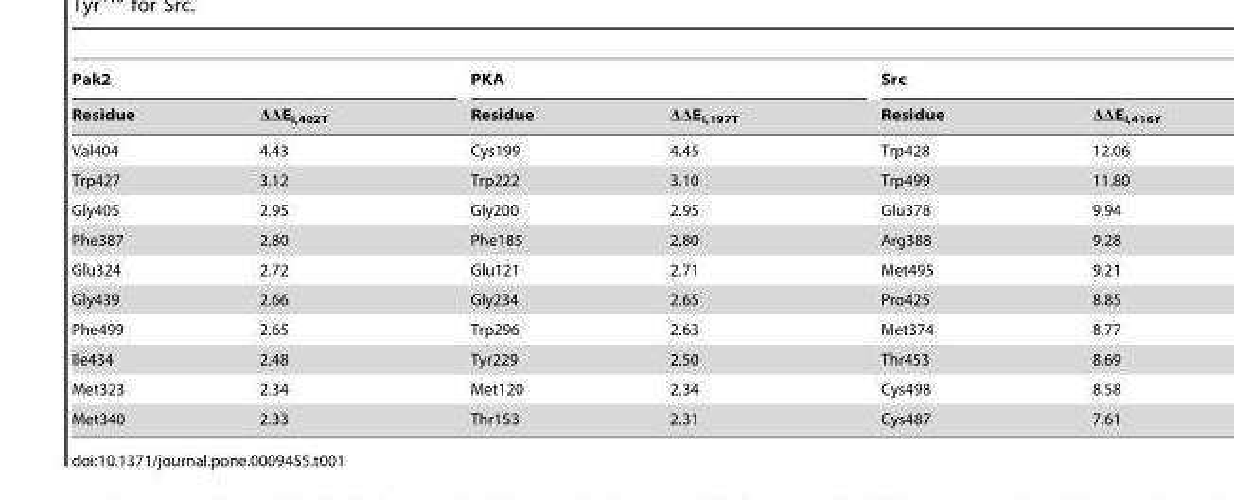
<table><thead><tr><td colspan="2">Pak2</td><td colspan="2">PKA</td><td colspan="2">Src</td></tr><tr><td>Residue</td><td>ΔΔE<sub>i,402T</sub></td><td>Residue</td><td>ΔΔE<sub>i,197T</sub></td><td>Residue</td><td>ΔΔE<sub>i,416Y</sub></td></tr></thead><tbody><tr><td>Val404</td><td>4.43</td><td>Cys199</td><td>4.45</td><td>Trp428</td><td>12.06</td></tr><tr><td>Trp427</td><td>3.12</td><td>Trp222</td><td>3.10</td><td>Trp499</td><td>11.80</td></tr><tr><td>Gly405</td><td>2.95</td><td>Gly200</td><td>2.95</td><td>Glu378</td><td>9.94</td></tr><tr><td>Phe387</td><td>2.80</td><td>Phe185</td><td>2.80</td><td>Arg388</td><td>9.28</td></tr><tr><td>Glu324</td><td>2.72</td><td>Glu121</td><td>2.71</td><td>Met495</td><td>9.21</td></tr><tr><td>Gly439</td><td>2.66</td><td>Gly234</td><td>2.65</td><td>Pro425</td><td>8.85</td></tr><tr><td>Phe499</td><td>2.65</td><td>Trp296</td><td>2.63</td><td>Met374</td><td>8.77</td></tr><tr><td>Ile434</td><td>2.48</td><td>Tyr229</td><td>2.50</td><td>Thr453</td><td>8.69</td></tr><tr><td>Met323</td><td>2.34</td><td>Met120</td><td>2.34</td><td>Cys498</td><td>8.58</td></tr><tr><td>Met340</td><td>2.33</td><td>Thr153</td><td>2.31</td><td>Cys487</td><td>7.61</td></tr></tbody></table>